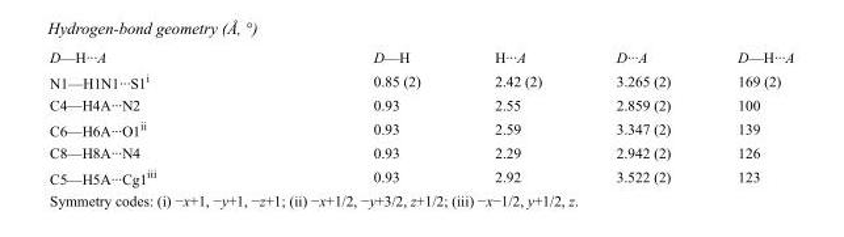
<table><tbody><tr><td>D—H···A</td><td>D—H</td><td>H···A</td><td>D···A</td><td>D—H···A</td></tr><tr><td>N1—H1N1···S1<sup>i</sup></td><td>0.85 (2)</td><td>2.42 (2)</td><td>3.265 (2)</td><td>169 (2)</td></tr><tr><td>C4—H4A···N2</td><td>0.93</td><td>2.55</td><td>2.859 (2)</td><td>100</td></tr><tr><td>C6—H6A···O1<sup>ii</sup></td><td>0.93</td><td>2.59</td><td>3.347 (2)</td><td>139</td></tr><tr><td>C8—H8A···N4</td><td>0.93</td><td>2.29</td><td>2.942 (2)</td><td>126</td></tr><tr><td>C5—H5A···Cg1<sup>iii</sup></td><td>0.93</td><td>2.92</td><td>3.522 (2)</td><td>123</td></tr></tbody></table>